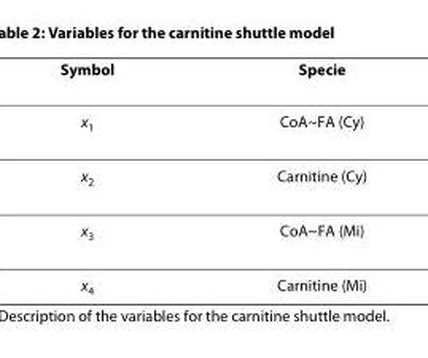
<table><thead><tr><td>Symbol</td><td>Specie</td></tr></thead><tbody><tr><td>x<sub>1</sub></td><td>CoA~FA (Cy)</td></tr><tr><td>x<sub>2</sub></td><td>Carnitine (Cy)</td></tr><tr><td>x<sub>3</sub></td><td>CoA~FA (Mi)</td></tr><tr><td>x<sub>4</sub></td><td>Carnitine (Mi)</td></tr></tbody></table>